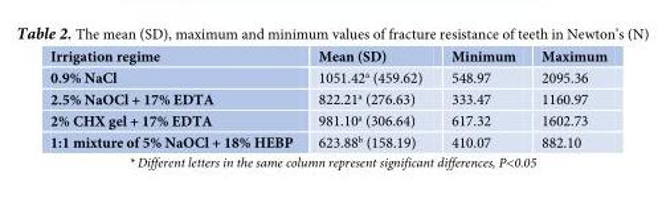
<table><thead><tr><td>Irrigation regime</td><td>Mean (SD)</td><td>Minimum</td><td>Maximum</td></tr></thead><tbody><tr><td>0.9% NaCl</td><td>1051.42<sup>a</sup> (459.62)</td><td>548.97</td><td>2095.36</td></tr><tr><td>2.5% NaOCl + 17% EDTA</td><td>822.21<sup>a</sup> (276.63)</td><td>333.47</td><td>1160.97</td></tr><tr><td>2% CHX gel + 17% EDTA</td><td>981.10<sup>a</sup> (306.64)</td><td>617.32</td><td>1602.73</td></tr><tr><td>1:1 mixture of 5% NaOCl + 18% HEBP</td><td>623.88<sup>b</sup> (158.19)</td><td>410.07</td><td>882.10</td></tr></tbody></table>